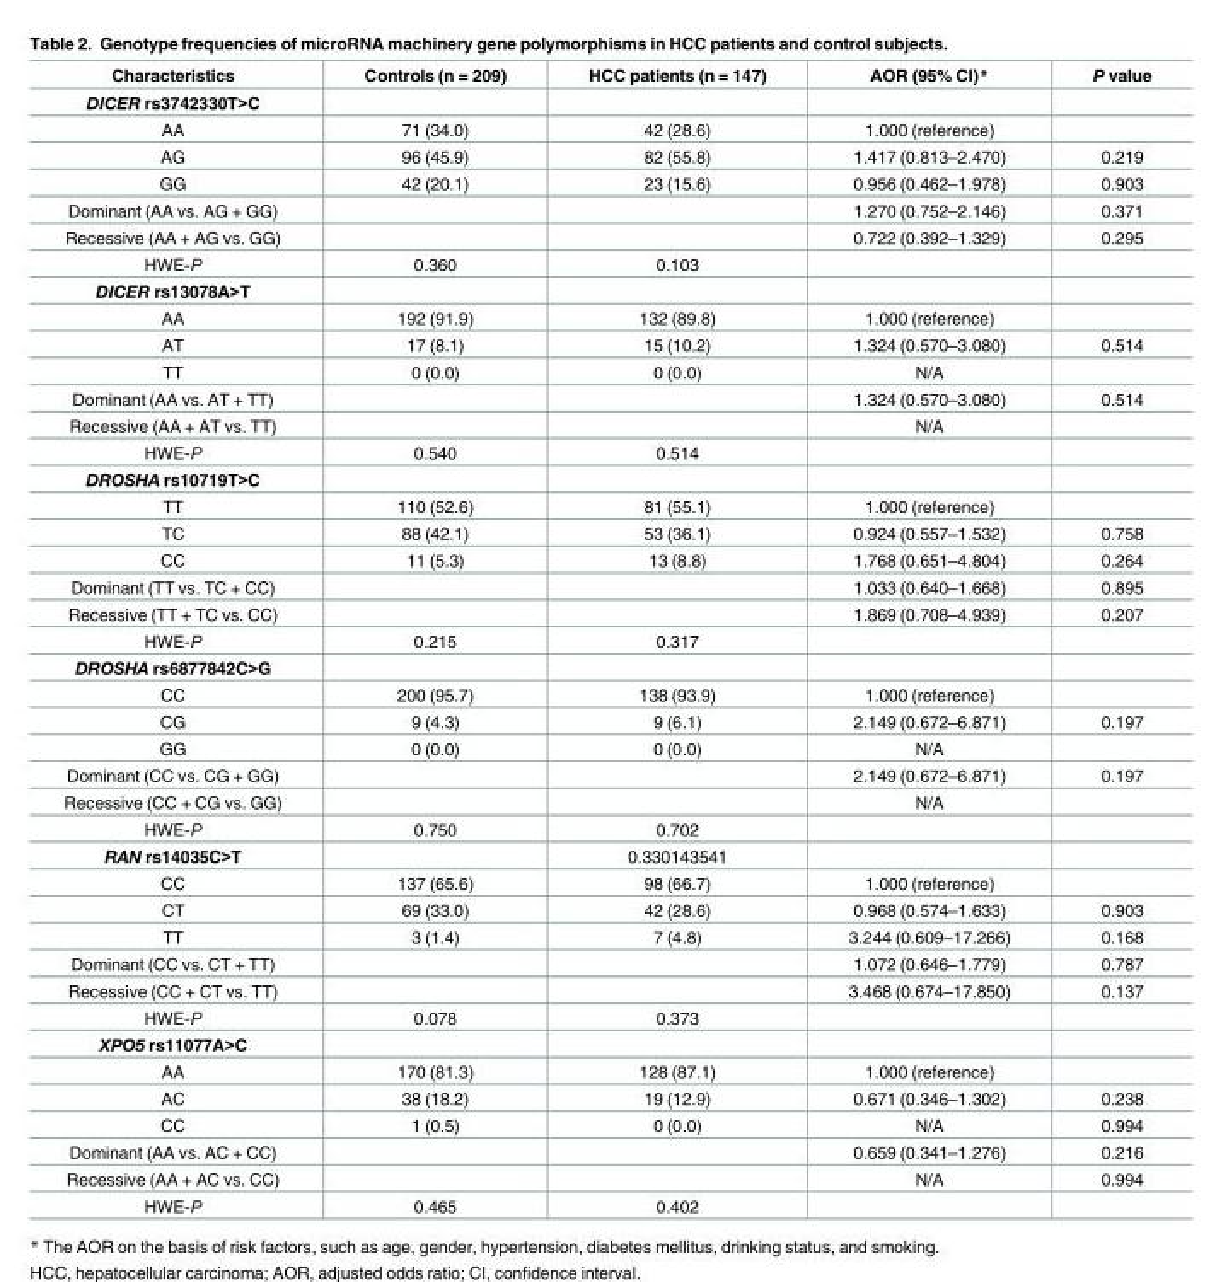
<table><thead><tr><td>Characteristics</td><td>Controls (n = 209)</td><td>HCC patients (n = 147)</td><td>AOR (95% CI)*</td><td>P value</td></tr></thead><tbody><tr><td colspan="5">DICER rs3742330T&gt;C</td></tr><tr><td>AA</td><td>71 (34.0)</td><td>42 (28.6)</td><td>1.000 (reference)</td><td></td></tr><tr><td>AG</td><td>96 (45.9)</td><td>82 (55.8)</td><td>1.417 (0.813–2.470)</td><td>0.219</td></tr><tr><td>GG</td><td>42 (20.1)</td><td>23 (15.6)</td><td>0.956 (0.462–1.978)</td><td>0.903</td></tr><tr><td>Dominant (AA vs. AG + GG)</td><td></td><td></td><td>1.270 (0.752–2.146)</td><td>0.371</td></tr><tr><td>Recessive (AA + AG vs. GG)</td><td></td><td></td><td>0.722 (0.392–1.329)</td><td>0.295</td></tr><tr><td>HWE-P</td><td>0.360</td><td>0.103</td><td></td><td></td></tr><tr><td colspan="5">DICER rs13078A&gt;T</td></tr><tr><td>AA</td><td>192 (91.9)</td><td>132 (89.8)</td><td>1.000 (reference)</td><td></td></tr><tr><td>AT</td><td>17 (8.1)</td><td>15 (10.2)</td><td>1.324 (0.570–3.080)</td><td>0.514</td></tr><tr><td>TT</td><td>0 (0.0)</td><td>0 (0.0)</td><td>N/A</td><td></td></tr><tr><td>Dominant (AA vs. AT + TT)</td><td></td><td></td><td>1.324 (0.570–3.080)</td><td>0.514</td></tr><tr><td>Recessive (AA + AT vs. TT)</td><td></td><td></td><td>N/A</td><td></td></tr><tr><td>HWE-P</td><td>0.540</td><td>0.514</td><td></td><td></td></tr><tr><td colspan="5">DROSHA rs10719T&gt;C</td></tr><tr><td>TT</td><td>110 (52.6)</td><td>81 (55.1)</td><td>1.000 (reference)</td><td></td></tr><tr><td>TC</td><td>88 (42.1)</td><td>53 (36.1)</td><td>0.924 (0.557–1.532)</td><td>0.758</td></tr><tr><td>CC</td><td>11 (5.3)</td><td>13 (8.8)</td><td>1.768 (0.651–4.804)</td><td>0.264</td></tr><tr><td>Dominant (TT vs. TC + CC)</td><td></td><td></td><td>1.033 (0.640–1.668)</td><td>0.895</td></tr><tr><td>Recessive (TT + TC vs. CC)</td><td></td><td></td><td>1.869 (0.708–4.939)</td><td>0.207</td></tr><tr><td>HWE-P</td><td>0.215</td><td>0.317</td><td></td><td></td></tr><tr><td colspan="5">DROSHA rs6877842C&gt;G</td></tr><tr><td>CC</td><td>200 (95.7)</td><td>138 (93.9)</td><td>1.000 (reference)</td><td></td></tr><tr><td>CG</td><td>9 (4.3)</td><td>9 (6.1)</td><td>2.149 (0.672–6.871)</td><td>0.197</td></tr><tr><td>GG</td><td>0 (0.0)</td><td>0 (0.0)</td><td>N/A</td><td></td></tr><tr><td>Dominant (CC vs. CG + GG)</td><td></td><td></td><td>2.149 (0.672–6.871)</td><td>0.197</td></tr><tr><td>Recessive (CC + CG vs. GG)</td><td></td><td></td><td>N/A</td><td></td></tr><tr><td>HWE-P</td><td>0.750</td><td>0.702</td><td></td><td></td></tr><tr><td>RAN rs14035C&gt;T</td><td></td><td>0.330143541</td><td></td><td></td></tr><tr><td>CC</td><td>137 (65.6)</td><td>98 (66.7)</td><td>1.000 (reference)</td><td></td></tr><tr><td>CT</td><td>69 (33.0)</td><td>42 (28.6)</td><td>0.968 (0.574–1.633)</td><td>0.903</td></tr><tr><td>TT</td><td>3 (1.4)</td><td>7 (4.8)</td><td>3.244 (0.609–17.266)</td><td>0.168</td></tr><tr><td>Dominant (CC vs. CT + TT)</td><td></td><td></td><td>1.072 (0.646–1.779)</td><td>0.787</td></tr><tr><td>Recessive (CC + CT vs. TT)</td><td></td><td></td><td>3.468 (0.674–17.850)</td><td>0.137</td></tr><tr><td>HWE-P</td><td>0.078</td><td>0.373</td><td></td><td></td></tr><tr><td colspan="5">XPO5 rs11077A&gt;C</td></tr><tr><td>AA</td><td>170 (81.3)</td><td>128 (87.1)</td><td>1.000 (reference)</td><td></td></tr><tr><td>AC</td><td>38 (18.2)</td><td>19 (12.9)</td><td>0.671 (0.346–1.302)</td><td>0.238</td></tr><tr><td>CC</td><td>1 (0.5)</td><td>0 (0.0)</td><td>N/A</td><td>0.994</td></tr><tr><td>Dominant (AA vs. AC + CC)</td><td></td><td></td><td>0.659 (0.341–1.276)</td><td>0.216</td></tr><tr><td>Recessive (AA + AC vs. CC)</td><td></td><td></td><td>N/A</td><td>0.994</td></tr><tr><td>HWE-P</td><td>0.465</td><td>0.402</td><td></td><td></td></tr></tbody></table>